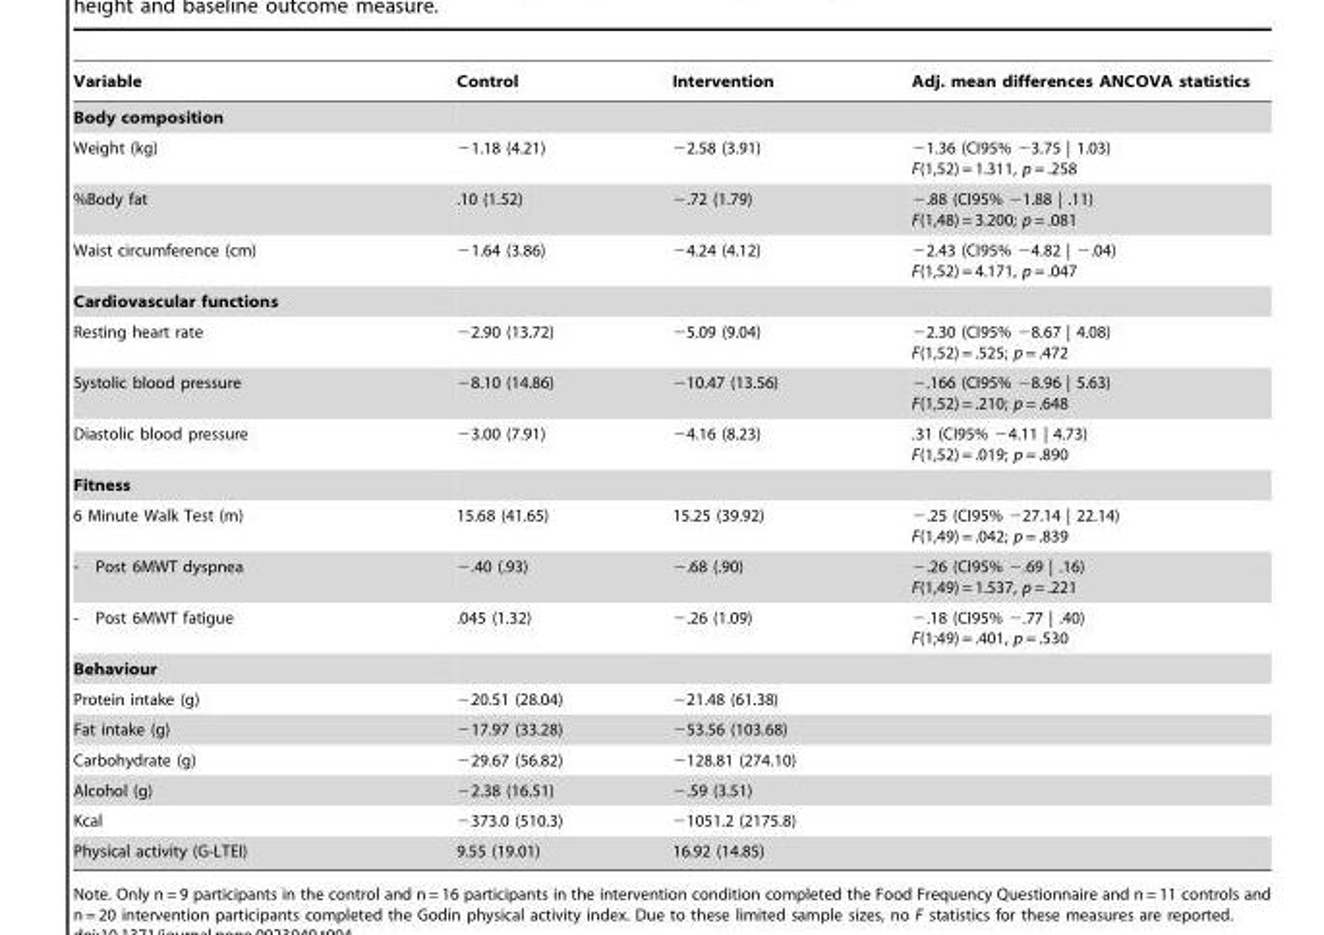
<table><thead><tr><td>Variable</td><td>Control</td><td>Intervention</td><td>Adj. mean differences ANCOVA statistics</td></tr></thead><tbody><tr><td colspan="4">Body composition</td></tr><tr><td>Weight (kg)</td><td>−1.18 (4.21)</td><td>−2.58 (3.91)</td><td>−1.36 (CI95% −3.75 | 1.03) F(1,52) = 1.311, p = .258</td></tr><tr><td>%Body fat</td><td>.10 (1.52)</td><td>−.72 (1.79)</td><td>−.88 (CI95% −1.88 | .11) F(1,48) = 3.200; p = .081</td></tr><tr><td>Waist circumference (cm)</td><td>−1.64 (3.86)</td><td>−4.24 (4.12)</td><td>−2.43 (CI95% −4.82 | −.04) F(1,52) = 4.171, p = .047</td></tr><tr><td colspan="4">Cardiovascular functions</td></tr><tr><td>Resting heart rate</td><td>−2.90 (13.72)</td><td>−5.09 (9.04)</td><td>−2.30 (CI95% −8.67 | 4.08) F(1,52) = .525; p = .472</td></tr><tr><td>Systolic blood pressure</td><td>−8.10 (14.86)</td><td>−10.47 (13.56)</td><td>−.166 (CI95% −8.96 | 5.63) F(1,52) = .210; p = .648</td></tr><tr><td>Diastolic blood pressure</td><td>−3.00 (7.91)</td><td>−4.16 (8.23)</td><td>.31 (CI95% −4.11 | 4.73) F(1,52) = .019; p = .890</td></tr><tr><td colspan="4">Fitness</td></tr><tr><td>6 Minute Walk Test (m)</td><td>15.68 (41.65)</td><td>15.25 (39.92)</td><td>−.25 (CI95% −27.14 | 22.14) F(1,49) = .042; p = .839</td></tr><tr><td>- Post 6MWT dyspnea</td><td>−.40 (.93)</td><td>−.68 (.90)</td><td>−.26 (CI95% −.69 | .16) F(1,49) = 1.537, p = .221</td></tr><tr><td>- Post 6MWT fatigue</td><td>.045 (1.32)</td><td>−.26 (1.09)</td><td>−.18 (CI95% −.77 | .40) F(1;49) = .401, p = .530</td></tr><tr><td colspan="4">Behaviour</td></tr><tr><td>Protein intake (g)</td><td>−20.51 (28.04)</td><td>−21.48 (61.38)</td><td></td></tr><tr><td>Fat intake (g)</td><td>−17.97 (33.28)</td><td>−53.56 (103.68)</td><td></td></tr><tr><td>Carbohydrate (g)</td><td>−29.67 (56.82)</td><td>−128.81 (274.10)</td><td></td></tr><tr><td>Alcohol (g)</td><td>−2.38 (16.51)</td><td>−.59 (3.51)</td><td></td></tr><tr><td>Kcal</td><td>−373.0 (510.3)</td><td>−1051.2 (2175.8)</td><td></td></tr><tr><td>Physical activity (G-LTEI)</td><td>9.55 (19.01)</td><td>16.92 (14.85)</td><td></td></tr></tbody></table>